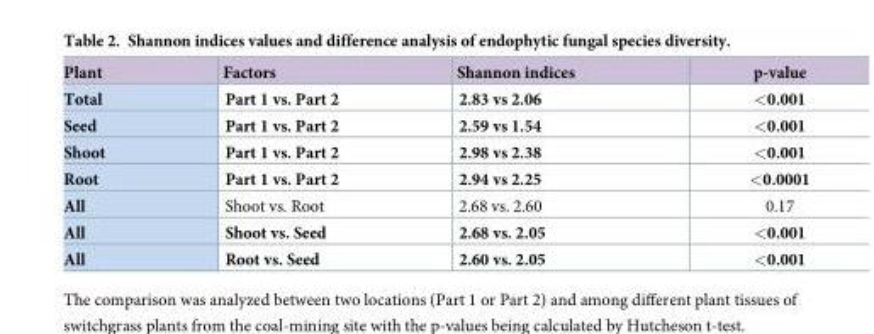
<table><thead><tr><td>Plant</td><td>Factors</td><td>Shannon indices</td><td>p-value</td></tr></thead><tbody><tr><td>Total</td><td>Part 1 vs. Part 2</td><td>2.83 vs 2.06</td><td>&lt;0.001</td></tr><tr><td>Seed</td><td>Part 1 vs. Part 2</td><td>2.59 vs 1.54</td><td>&lt;0.001</td></tr><tr><td>Shoot</td><td>Part 1 vs. Part 2</td><td>2.98 vs 2.38</td><td>&lt;0.001</td></tr><tr><td>Root</td><td>Part 1 vs. Part 2</td><td>2.94 vs 2.25</td><td>&lt;0.0001</td></tr><tr><td>All</td><td>Shoot vs. Root</td><td>2.68 vs. 2.60</td><td>0.17</td></tr><tr><td>All</td><td>Shoot vs. Seed</td><td>2.68 vs. 2.05</td><td>&lt;0.001</td></tr><tr><td>All</td><td>Root vs. Seed</td><td>2.60 vs. 2.05</td><td>&lt;0.001</td></tr></tbody></table>